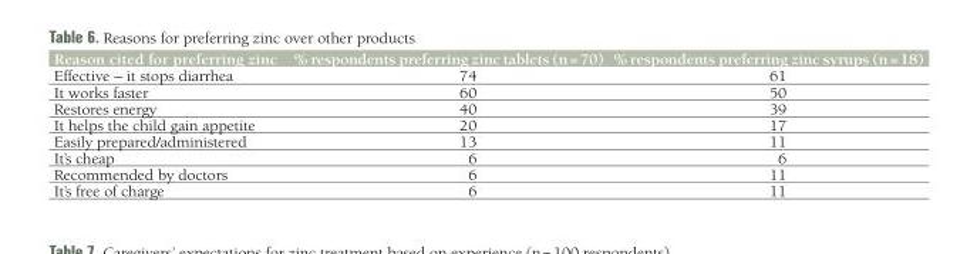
<table><thead><tr><td>Reason cited for preferring zinc</td><td>% respondents preferring zinc tablets (n = 70)</td><td>% respondents preferring zinc syrups (n = 18)</td></tr></thead><tbody><tr><td>Effective – it stops diarrhea</td><td>74</td><td>61</td></tr><tr><td>It works faster</td><td>60</td><td>50</td></tr><tr><td>Restores energy</td><td>40</td><td>39</td></tr><tr><td>It helps the child gain appetite</td><td>20</td><td>17</td></tr><tr><td>Easily prepared/administered</td><td>13</td><td>11</td></tr><tr><td>It’s cheap</td><td>6</td><td>6</td></tr><tr><td>Recommended by doctors</td><td>6</td><td>11</td></tr><tr><td>It’s free of charge</td><td>6</td><td>11</td></tr></tbody></table>